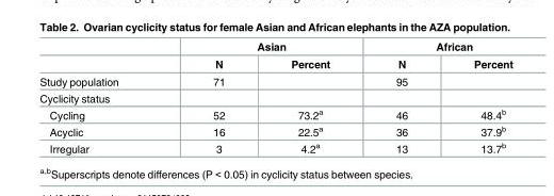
<table><thead><tr><td rowspan="2"></td><td colspan="2">Asian</td><td colspan="2">African</td></tr><tr><td>N</td><td>Percent</td><td>N</td><td>Percent</td></tr></thead><tbody><tr><td>Study population</td><td>71</td><td></td><td>95</td><td></td></tr><tr><td colspan="5">Cyclicity status</td></tr><tr><td>Cycling</td><td>52</td><td>73.2<sup>a</sup></td><td>46</td><td>48.4<sup>b</sup></td></tr><tr><td>Acyclic</td><td>16</td><td>22.5<sup>a</sup></td><td>36</td><td>37.9<sup>b</sup></td></tr><tr><td>Irregular</td><td>3</td><td>4.2<sup>a</sup></td><td>13</td><td>13.7<sup>b</sup></td></tr></tbody></table>